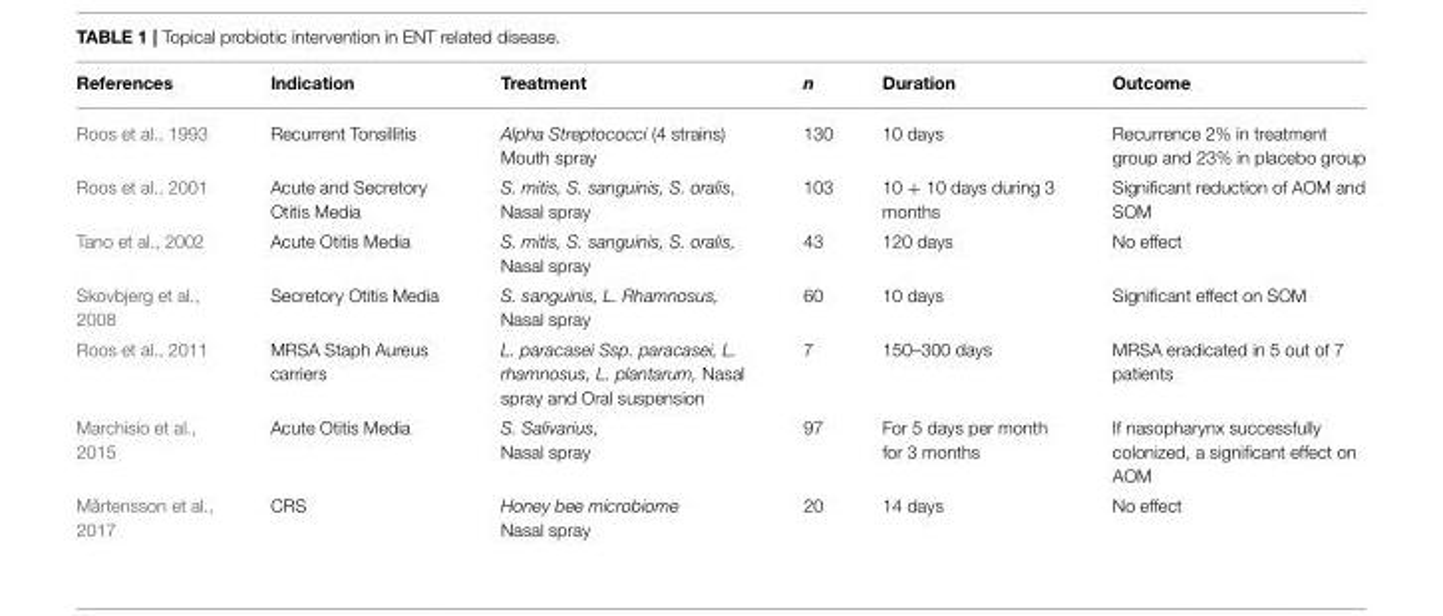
<table><thead><tr><td>References</td><td>Indication</td><td>Treatment</td><td>n</td><td>Duration</td><td>Outcome</td></tr></thead><tbody><tr><td>Roos et al., 1993</td><td>Recurrent Tonsillitis</td><td>Alpha Streptococci (4 strains) Mouth spray</td><td>130</td><td>10 days</td><td>Recurrence 2% in treatment group and 23% in placebo group</td></tr><tr><td>Roos et al., 2001</td><td>Acute and Secretory Otitis Media</td><td>S. mitis, S. sanguinis, S. oralis, Nasal spray</td><td>103</td><td>10 + 10 days during 3 months</td><td>Significant reduction of AOM and SOM</td></tr><tr><td>Tano et al., 2002</td><td>Acute Otitis Media</td><td>S. mitis, S. sanguinis, S. oralis, Nasal spray</td><td>43</td><td>120 days</td><td>No effect</td></tr><tr><td>Skovbjerg et al., 2008</td><td>Secretory Otitis Media</td><td>S. sanguinis, L. Rhamnosus, Nasal spray</td><td>60</td><td>10 days</td><td>Significant effect on SOM</td></tr><tr><td>Roos et al., 2011</td><td>MRSA Staph Aureus carriers</td><td>L. paracasei Ssp. paracasei, L. rhamnosus, L. plantarum, Nasal spray and Oral suspension</td><td>7</td><td>150–300 days</td><td>MRSA eradicated in 5 out of 7 patients</td></tr><tr><td>Marchisio et al., 2015</td><td>Acute Otitis Media</td><td>S. Salivarius, Nasal spray</td><td>97</td><td>For 5 days per month for 3 months</td><td>If nasopharynx successfully colonized, a significant effect on AOM</td></tr><tr><td>Mårtensson et al., 2017</td><td>CRS</td><td>Honey bee microbiome Nasal spray</td><td>20</td><td>14 days</td><td>No effect</td></tr></tbody></table>